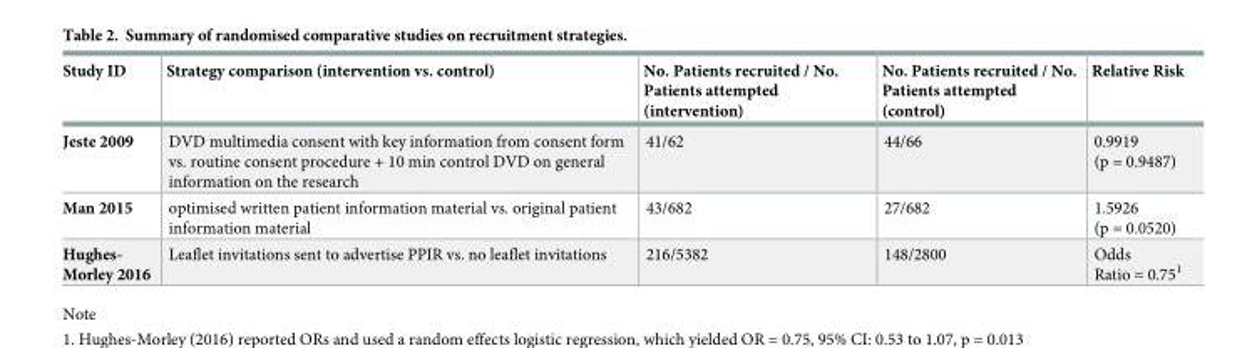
<table><thead><tr><td>Study ID</td><td>Strategy comparison (intervention vs. control)</td><td>No. Patients recruited / No. Patients attempted (intervention)</td><td>No. Patients recruited / No. Patients attempted (control)</td><td>Relative Risk</td></tr></thead><tbody><tr><td>Jeste 2009</td><td>DVD multimedia consent with key information from consent form vs. routine consent procedure + 10 min control DVD on general information on the research</td><td>41/62</td><td>44/66</td><td>0.9919 (p = 0.9487)</td></tr><tr><td>Man 2015</td><td>optimised written patient information material vs. original patient information material</td><td>43/682</td><td>27/682</td><td>1.5926 (p = 0.0520)</td></tr><tr><td>Hughes- Morley 2016</td><td>Leaflet invitations sent to advertise PPIR vs. no leaflet invitations</td><td>216/5382</td><td>148/2800</td><td>Odds Ratio = 0.75<sup>1</sup></td></tr></tbody></table>